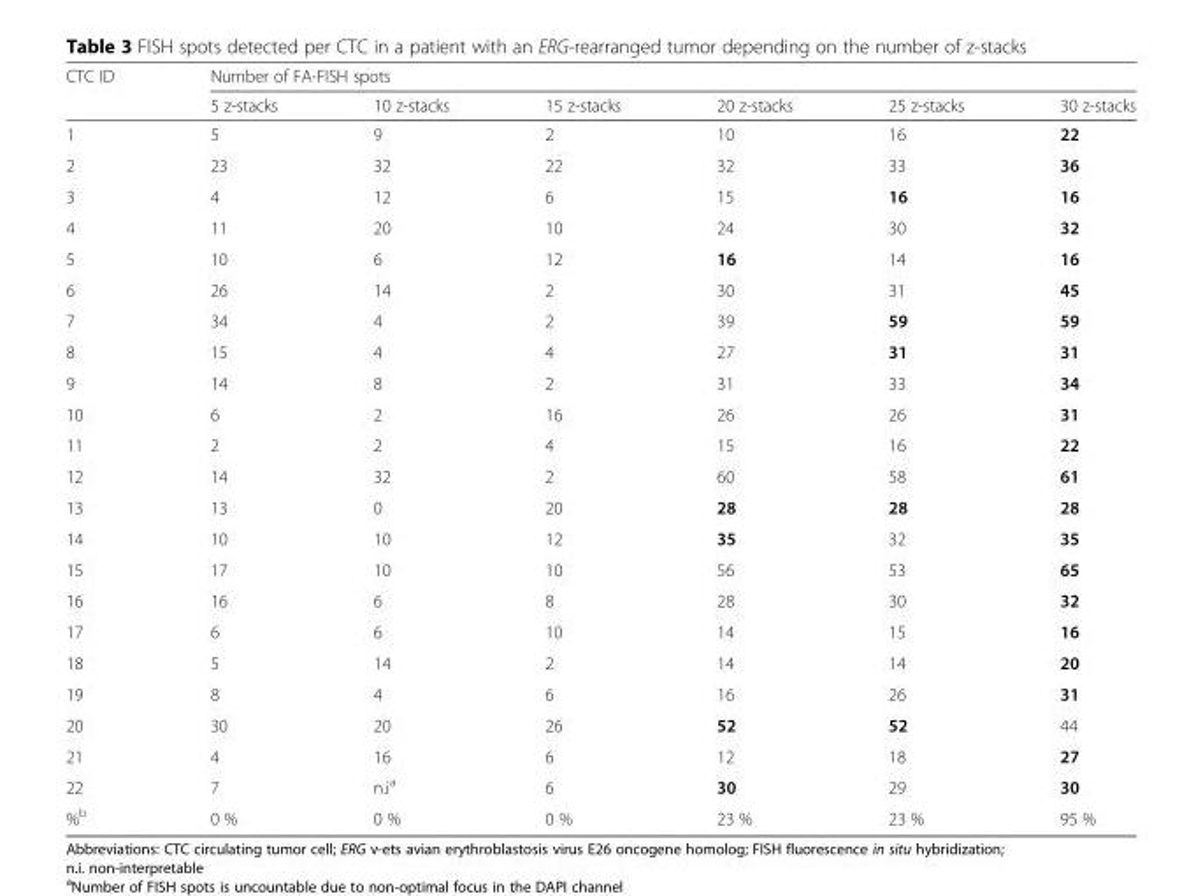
<table><thead><tr><td rowspan="2">CTC ID</td><td colspan="6">Number of FA-FISH spots</td></tr><tr><td>5 z-stacks</td><td>10 z-stacks</td><td>15 z-stacks</td><td>20 z-stacks</td><td>25 z-stacks</td><td>30 z-stacks</td></tr></thead><tbody><tr><td>1</td><td>5</td><td>9</td><td>2</td><td>10</td><td>16</td><td>22</td></tr><tr><td>2</td><td>23</td><td>32</td><td>22</td><td>32</td><td>33</td><td>36</td></tr><tr><td>3</td><td>4</td><td>12</td><td>6</td><td>15</td><td>16</td><td>16</td></tr><tr><td>4</td><td>11</td><td>20</td><td>10</td><td>24</td><td>30</td><td>32</td></tr><tr><td>5</td><td>10</td><td>6</td><td>12</td><td>16</td><td>14</td><td>16</td></tr><tr><td>6</td><td>26</td><td>14</td><td>2</td><td>30</td><td>31</td><td>45</td></tr><tr><td>7</td><td>34</td><td>4</td><td>2</td><td>39</td><td>59</td><td>59</td></tr><tr><td>8</td><td>15</td><td>4</td><td>4</td><td>27</td><td>31</td><td>31</td></tr><tr><td>9</td><td>14</td><td>8</td><td>2</td><td>31</td><td>33</td><td>34</td></tr><tr><td>10</td><td>6</td><td>2</td><td>16</td><td>26</td><td>26</td><td>31</td></tr><tr><td>11</td><td>2</td><td>2</td><td>4</td><td>15</td><td>16</td><td>22</td></tr><tr><td>12</td><td>14</td><td>32</td><td>2</td><td>60</td><td>58</td><td>61</td></tr><tr><td>13</td><td>13</td><td>0</td><td>20</td><td>28</td><td>28</td><td>28</td></tr><tr><td>14</td><td>10</td><td>10</td><td>12</td><td>35</td><td>32</td><td>35</td></tr><tr><td>15</td><td>17</td><td>10</td><td>10</td><td>56</td><td>53</td><td>65</td></tr><tr><td>16</td><td>16</td><td>6</td><td>8</td><td>28</td><td>30</td><td>32</td></tr><tr><td>17</td><td>6</td><td>6</td><td>10</td><td>14</td><td>15</td><td>16</td></tr><tr><td>18</td><td>5</td><td>14</td><td>2</td><td>14</td><td>14</td><td>20</td></tr><tr><td>19</td><td>8</td><td>4</td><td>6</td><td>16</td><td>26</td><td>31</td></tr><tr><td>20</td><td>30</td><td>20</td><td>26</td><td>52</td><td>52</td><td>44</td></tr><tr><td>21</td><td>4</td><td>16</td><td>6</td><td>12</td><td>18</td><td>27</td></tr><tr><td>22</td><td>7</td><td>n.i<sup>a</sup></td><td>6</td><td>30</td><td>29</td><td>30</td></tr><tr><td>%<sup>b</sup></td><td>0 %</td><td>0 %</td><td>0 %</td><td>23 %</td><td>23 %</td><td>95 %</td></tr></tbody></table>